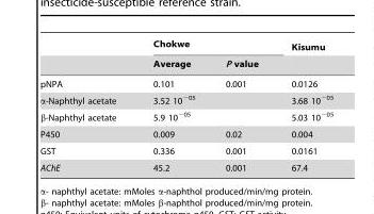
<table><thead><tr><td rowspan="2"></td><td colspan="2">Chokwe</td><td rowspan="2">Kisumu</td></tr><tr><td>Average</td><td>P value</td></tr></thead><tbody><tr><td>pNPA</td><td>0.101</td><td>0.001</td><td>0.0126</td></tr><tr><td>α-Naphthyl acetate</td><td>3.52 10<sup>−05</sup></td><td></td><td>3.68 10<sup>−05</sup></td></tr><tr><td>β-Naphthyl acetate</td><td>5.9 10<sup>−05</sup></td><td></td><td>5.03 10<sup>−05</sup></td></tr><tr><td>P450</td><td>0.009</td><td>0.02</td><td>0.004</td></tr><tr><td>GST</td><td>0.336</td><td>0.001</td><td>0.0161</td></tr><tr><td>AChE</td><td>45.2</td><td>0.001</td><td>67.4</td></tr></tbody></table>